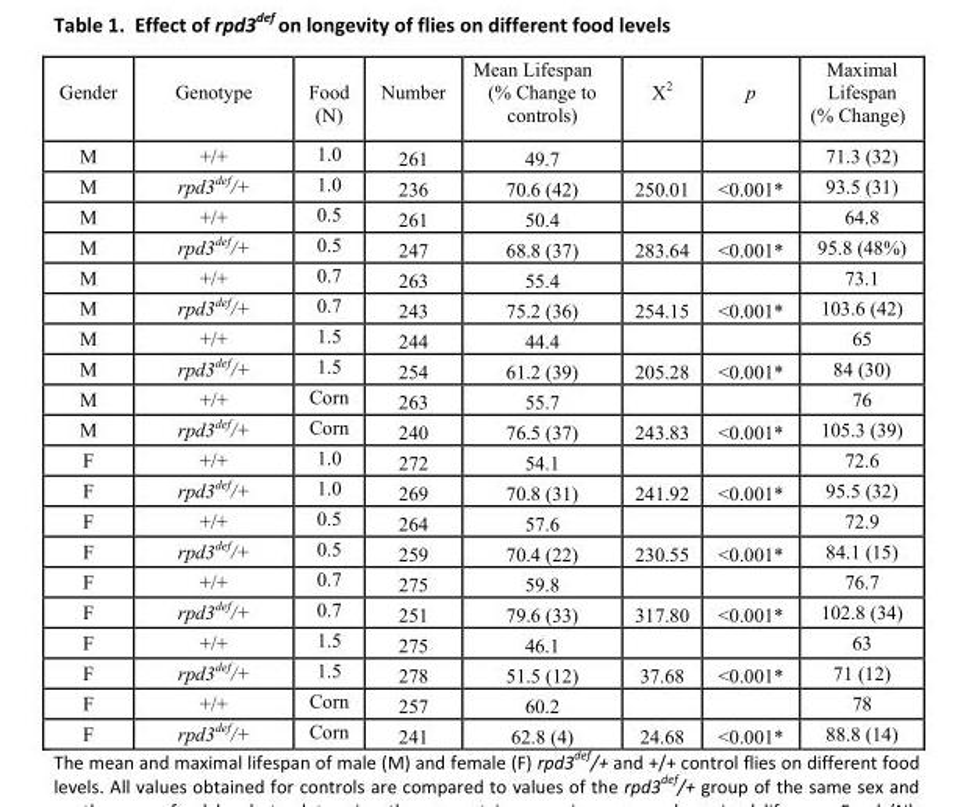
<table><thead><tr><td>Gender</td><td>Genotype</td><td>Food (N)</td><td>Number</td><td>Mean Lifespan (% Change to controls)</td><td>X<sup>2</sup></td><td>p</td><td>Maximal Lifespan (% Change)</td></tr></thead><tbody><tr><td>M</td><td>+/+</td><td>1.0</td><td>261</td><td>49.7</td><td></td><td></td><td>71.3 (32)</td></tr><tr><td>M</td><td>rpd3<sup>def</sup>/+</td><td>1.0</td><td>236</td><td>70.6 (42)</td><td>250.01</td><td>&lt;0.001*</td><td>93.5 (31)</td></tr><tr><td>M</td><td>+/+</td><td>0.5</td><td>261</td><td>50.4</td><td></td><td></td><td>64.8</td></tr><tr><td>M</td><td>rpd3<sup>def</sup>/+</td><td>0.5</td><td>247</td><td>68.8 (37)</td><td>283.64</td><td>&lt;0.001*</td><td>95.8 (48%)</td></tr><tr><td>M</td><td>+/+</td><td>0.7</td><td>263</td><td>55.4</td><td></td><td></td><td>73.1</td></tr><tr><td>M</td><td>rpd3<sup>def</sup>/+</td><td>0.7</td><td>243</td><td>75.2 (36)</td><td>254.15</td><td>&lt;0.001*</td><td>103.6 (42)</td></tr><tr><td>M</td><td>+/+</td><td>1.5</td><td>244</td><td>44.4</td><td></td><td></td><td>65</td></tr><tr><td>M</td><td>rpd3<sup>def</sup>/+</td><td>1.5</td><td>254</td><td>61.2 (39)</td><td>205.28</td><td>&lt;0.001*</td><td>84 (30)</td></tr><tr><td>M</td><td>+/+</td><td>Corn</td><td>263</td><td>55.7</td><td></td><td></td><td>76</td></tr><tr><td>M</td><td>rpd3<sup>def</sup>/+</td><td>Corn</td><td>240</td><td>76.5 (37)</td><td>243.83</td><td>&lt;0.001*</td><td>105.3 (39)</td></tr><tr><td>F</td><td>+/+</td><td>1.0</td><td>272</td><td>54.1</td><td></td><td></td><td>72.6</td></tr><tr><td>F</td><td>rpd3<sup>def</sup>/+</td><td>1.0</td><td>269</td><td>70.8 (31)</td><td>241.92</td><td>&lt;0.001*</td><td>95.5 (32)</td></tr><tr><td>F</td><td>+/+</td><td>0.5</td><td>264</td><td>57.6</td><td></td><td></td><td>72.9</td></tr><tr><td>F</td><td>rpd3<sup>def</sup>/+</td><td>0.5</td><td>259</td><td>70.4 (22)</td><td>230.55</td><td>&lt;0.001*</td><td>84.1 (15)</td></tr><tr><td>F</td><td>+/+</td><td>0.7</td><td>275</td><td>59.8</td><td></td><td></td><td>76.7</td></tr><tr><td>F</td><td>rpd3<sup>def</sup>/+</td><td>0.7</td><td>251</td><td>79.6 (33)</td><td>317.80</td><td>&lt;0.001*</td><td>102.8 (34)</td></tr><tr><td>F</td><td>+/+</td><td>1.5</td><td>275</td><td>46.1</td><td></td><td></td><td>63</td></tr><tr><td>F</td><td>rpd3<sup>def</sup>/+</td><td>1.5</td><td>278</td><td>51.5 (12)</td><td>37.68</td><td>&lt;0.001*</td><td>71 (12)</td></tr><tr><td>F</td><td>+/+</td><td>Corn</td><td>257</td><td>60.2</td><td></td><td></td><td>78</td></tr><tr><td>F</td><td>rpd3<sup>def</sup>/+</td><td>Corn</td><td>241</td><td>62.8 (4)</td><td>24.68</td><td>&lt;0.001*</td><td>88.8 (14)</td></tr></tbody></table>